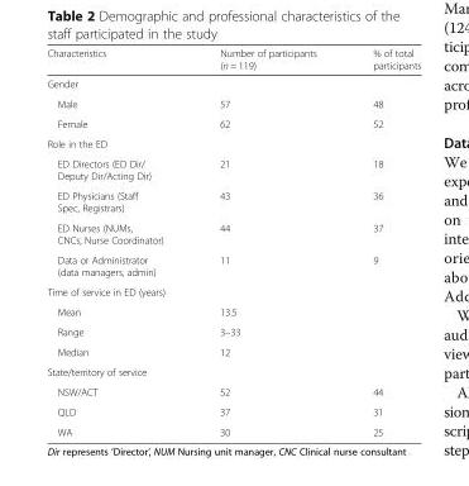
<table><thead><tr><td>Characteristics</td><td>Number of participants (n = 119)</td><td>% of total participants</td></tr></thead><tbody><tr><td colspan="3">Gender</td></tr><tr><td>Male</td><td>57</td><td>48</td></tr><tr><td>Female</td><td>62</td><td>52</td></tr><tr><td colspan="3">Role in the ED</td></tr><tr><td>ED Directors (ED Dir/ Deputy Dir/Acting Dir)</td><td>21</td><td>18</td></tr><tr><td>ED Physicians (Staff Spec, Registrars)</td><td>43</td><td>36</td></tr><tr><td>ED Nurses (NUMs, CNCs, Nurse Coordinator)</td><td>44</td><td>37</td></tr><tr><td>Data or Administrator (data managers, admin)</td><td>11</td><td>9</td></tr><tr><td colspan="3">Time of service in ED (years)</td></tr><tr><td>Mean</td><td>13.5</td><td></td></tr><tr><td>Range</td><td>3–33</td><td></td></tr><tr><td>Median</td><td>12</td><td></td></tr><tr><td colspan="3">State/territory of service</td></tr><tr><td>NSW/ACT</td><td>52</td><td>44</td></tr><tr><td>QLD</td><td>37</td><td>31</td></tr><tr><td>WA</td><td>30</td><td>25</td></tr></tbody></table>